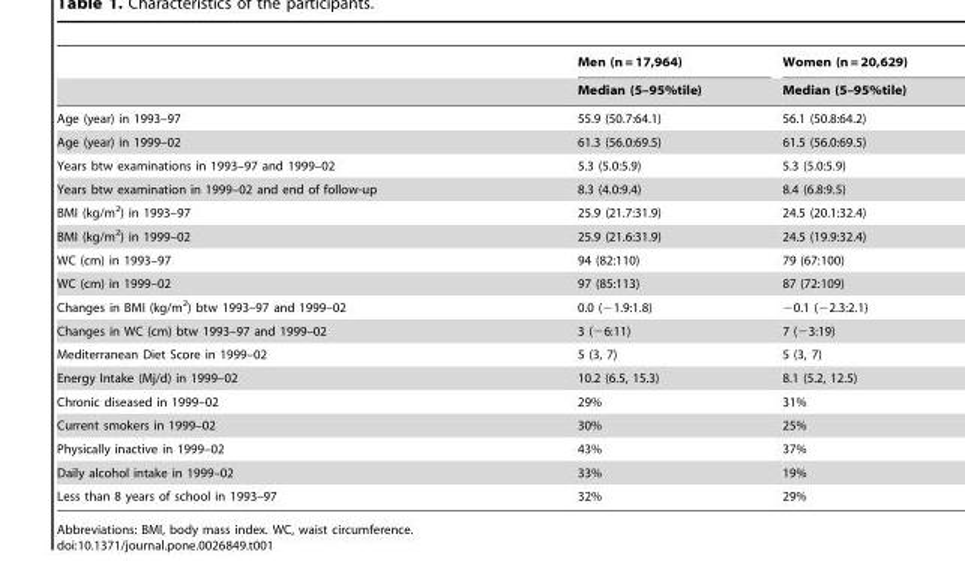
<table><thead><tr><td rowspan="2"></td><td rowspan="2">Men (n = 17,964) Median (5–95%tile)</td><td rowspan="2">Women (n = 20,629) Median (5–95%tile)</td></tr><tr></tr></thead><tbody><tr><td>Age (year) in 1993–97</td><td>55.9 (50.7:64.1)</td><td>56.1 (50.8:64.2)</td></tr><tr><td>Age (year) in 1999–02</td><td>61.3 (56.0:69.5)</td><td>61.5 (56.0:69.5)</td></tr><tr><td>Years btw examinations in 1993–97 and 1999–02</td><td>5.3 (5.0:5.9)</td><td>5.3 (5.0:5.9)</td></tr><tr><td>Years btw examination in 1999–02 and end of follow-up</td><td>8.3 (4.0:9.4)</td><td>8.4 (6.8:9.5)</td></tr><tr><td>BMI (kg/m<sup>2</sup>) in 1993–97</td><td>25.9 (21.7:31.9)</td><td>24.5 (20.1:32.4)</td></tr><tr><td>BMI (kg/m<sup>2</sup>) in 1999–02</td><td>25.9 (21.6:31.9)</td><td>24.5 (19.9:32.4)</td></tr><tr><td>WC (cm) in 1993–97</td><td>94 (82:110)</td><td>79 (67:100)</td></tr><tr><td>WC (cm) in 1999–02</td><td>97 (85:113)</td><td>87 (72:109)</td></tr><tr><td>Changes in BMI (kg/m<sup>2</sup>) btw 1993–97 and 1999–02</td><td>0.0 (−1.9:1.8)</td><td>−0.1 (−2.3:2.1)</td></tr><tr><td>Changes in WC (cm) btw 1993–97 and 1999–02</td><td>3 (−6:11)</td><td>7 (−3:19)</td></tr><tr><td>Mediterranean Diet Score in 1999–02</td><td>5 (3, 7)</td><td>5 (3, 7)</td></tr><tr><td>Energy Intake (Mj/d) in 1999–02</td><td>10.2 (6.5, 15.3)</td><td>8.1 (5.2, 12.5)</td></tr><tr><td>Chronic diseased in 1999–02</td><td>29%</td><td>31%</td></tr><tr><td>Current smokers in 1999–02</td><td>30%</td><td>25%</td></tr><tr><td>Physically inactive in 1999–02</td><td>43%</td><td>37%</td></tr><tr><td>Daily alcohol intake in 1999–02</td><td>33%</td><td>19%</td></tr><tr><td>Less than 8 years of school in 1993–97</td><td>32%</td><td>29%</td></tr></tbody></table>